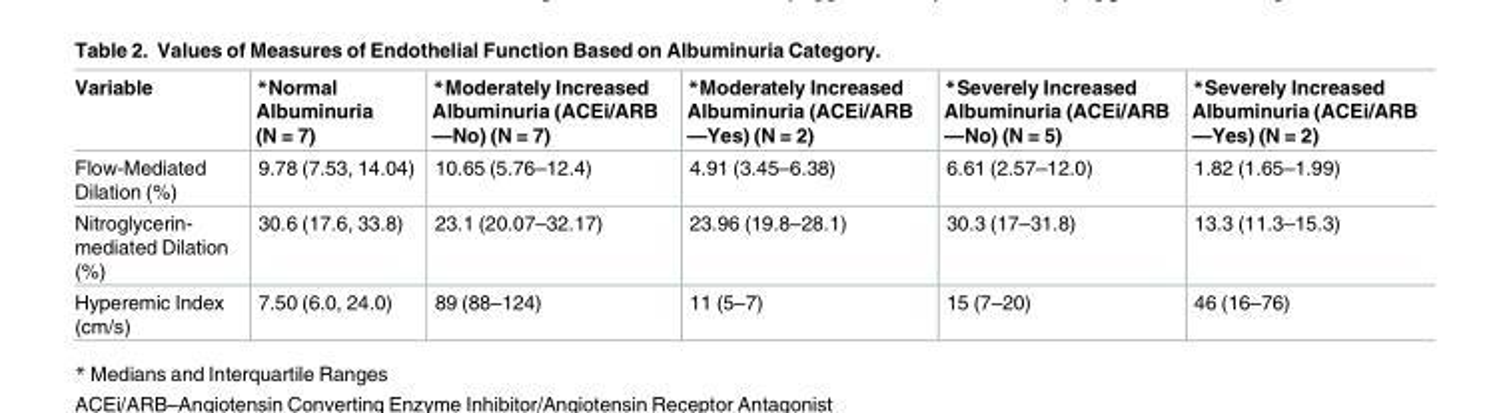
<table><thead><tr><td>Variable</td><td>*Normal Albuminuria (N = 7)</td><td>*Moderately Increased Albuminuria (ACEi/ARB —No) (N = 7)</td><td>*Moderately Increased Albuminuria (ACEi/ARB —Yes) (N = 2)</td><td>*Severely Increased Albuminuria (ACEi/ARB —No) (N = 5)</td><td>*Severely Increased Albuminuria (ACEi/ARB —Yes) (N = 2)</td></tr></thead><tbody><tr><td>Flow-Mediated Dilation (%)</td><td>9.78 (7.53, 14.04)</td><td>10.65 (5.76–12.4)</td><td>4.91 (3.45–6.38)</td><td>6.61 (2.57–12.0)</td><td>1.82 (1.65–1.99)</td></tr><tr><td>Nitroglycerin- mediated Dilation (%)</td><td>30.6 (17.6, 33.8)</td><td>23.1 (20.07–32.17)</td><td>23.96 (19.8–28.1)</td><td>30.3 (17–31.8)</td><td>13.3 (11.3–15.3)</td></tr><tr><td>Hyperemic Index (cm/s)</td><td>7.50 (6.0, 24.0)</td><td>89 (88–124)</td><td>11 (5–7)</td><td>15 (7–20)</td><td>46 (16–76)</td></tr></tbody></table>